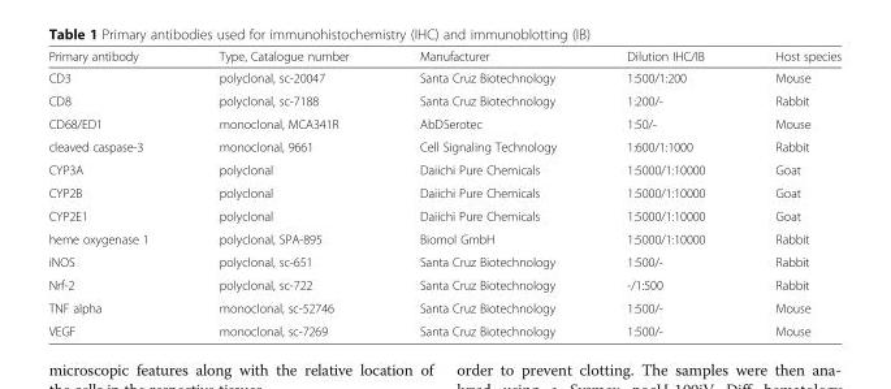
<table><thead><tr><td>Primary antibody</td><td>Type, Catalogue number</td><td>Manufacturer</td><td>Dilution IHC/IB</td><td>Host species</td></tr></thead><tbody><tr><td>CD3</td><td>polyclonal, sc-20047</td><td>Santa Cruz Biotechnology</td><td>1:500/1:200</td><td>Mouse</td></tr><tr><td>CD8</td><td>polyclonal, sc-7188</td><td>Santa Cruz Biotechnology</td><td>1:200/-</td><td>Rabbit</td></tr><tr><td>CD68/ED1</td><td>monoclonal, MCA341R</td><td>AbDSerotec</td><td>1:50/-</td><td>Mouse</td></tr><tr><td>cleaved caspase-3</td><td>monoclonal, 9661</td><td>Cell Signaling Technology</td><td>1:600/1:1000</td><td>Rabbit</td></tr><tr><td>CYP3A</td><td>polyclonal</td><td>Daiichi Pure Chemicals</td><td>1:5000/1:10000</td><td>Goat</td></tr><tr><td>CYP2B</td><td>polyclonal</td><td>Daiichi Pure Chemicals</td><td>1:5000/1:10000</td><td>Goat</td></tr><tr><td>CYP2E1</td><td>polyclonal</td><td>Daiichi Pure Chemicals</td><td>1:5000/1:10000</td><td>Goat</td></tr><tr><td>heme oxygenase 1</td><td>polyclonal, SPA-895</td><td>Biomol GmbH</td><td>1:5000/1:10000</td><td>Rabbit</td></tr><tr><td>iNOS</td><td>polyclonal, sc-651</td><td>Santa Cruz Biotechnology</td><td>1:500/-</td><td>Rabbit</td></tr><tr><td>Nrf-2</td><td>polyclonal, sc-722</td><td>Santa Cruz Biotechnology</td><td>-/1:500</td><td>Rabbit</td></tr><tr><td>TNF alpha</td><td>monoclonal, sc-52746</td><td>Santa Cruz Biotechnology</td><td>1:500/-</td><td>Mouse</td></tr><tr><td>VEGF</td><td>monoclonal, sc-7269</td><td>Santa Cruz Biotechnology</td><td>1:500/-</td><td>Mouse</td></tr></tbody></table>